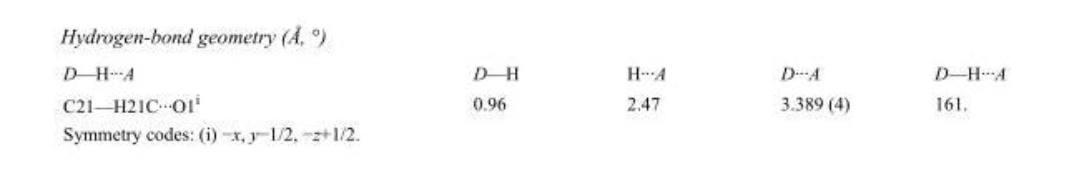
<table><tbody><tr><td>D—H···A</td><td>D—H</td><td>H···A</td><td>D···A</td><td>D—H···A</td></tr><tr><td>C21—H21C···O1<sup>i</sup></td><td>0.96</td><td>2.47</td><td>3.389 (4)</td><td>161.</td></tr></tbody></table>